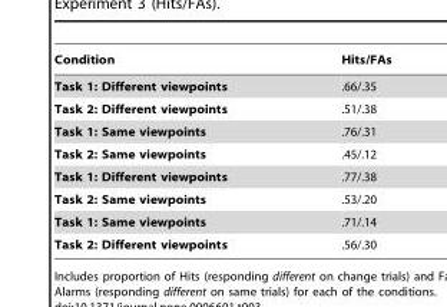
<table><thead><tr><td>Condition</td><td>Hits/FAs</td></tr></thead><tbody><tr><td>Task 1: Different viewpoints</td><td>.66/.35</td></tr><tr><td>Task 2: Different viewpoints</td><td>.51/.38</td></tr><tr><td>Task 1: Same viewpoints</td><td>.76/.31</td></tr><tr><td>Task 2: Same viewpoints</td><td>.45/.12</td></tr><tr><td>Task 1: Different viewpoints</td><td>.77/.38</td></tr><tr><td>Task 2: Same viewpoints</td><td>.53/.20</td></tr><tr><td>Task 1: Same viewpoints</td><td>.71/.14</td></tr><tr><td>Task 2: Different viewpoints</td><td>.56/.30</td></tr></tbody></table>